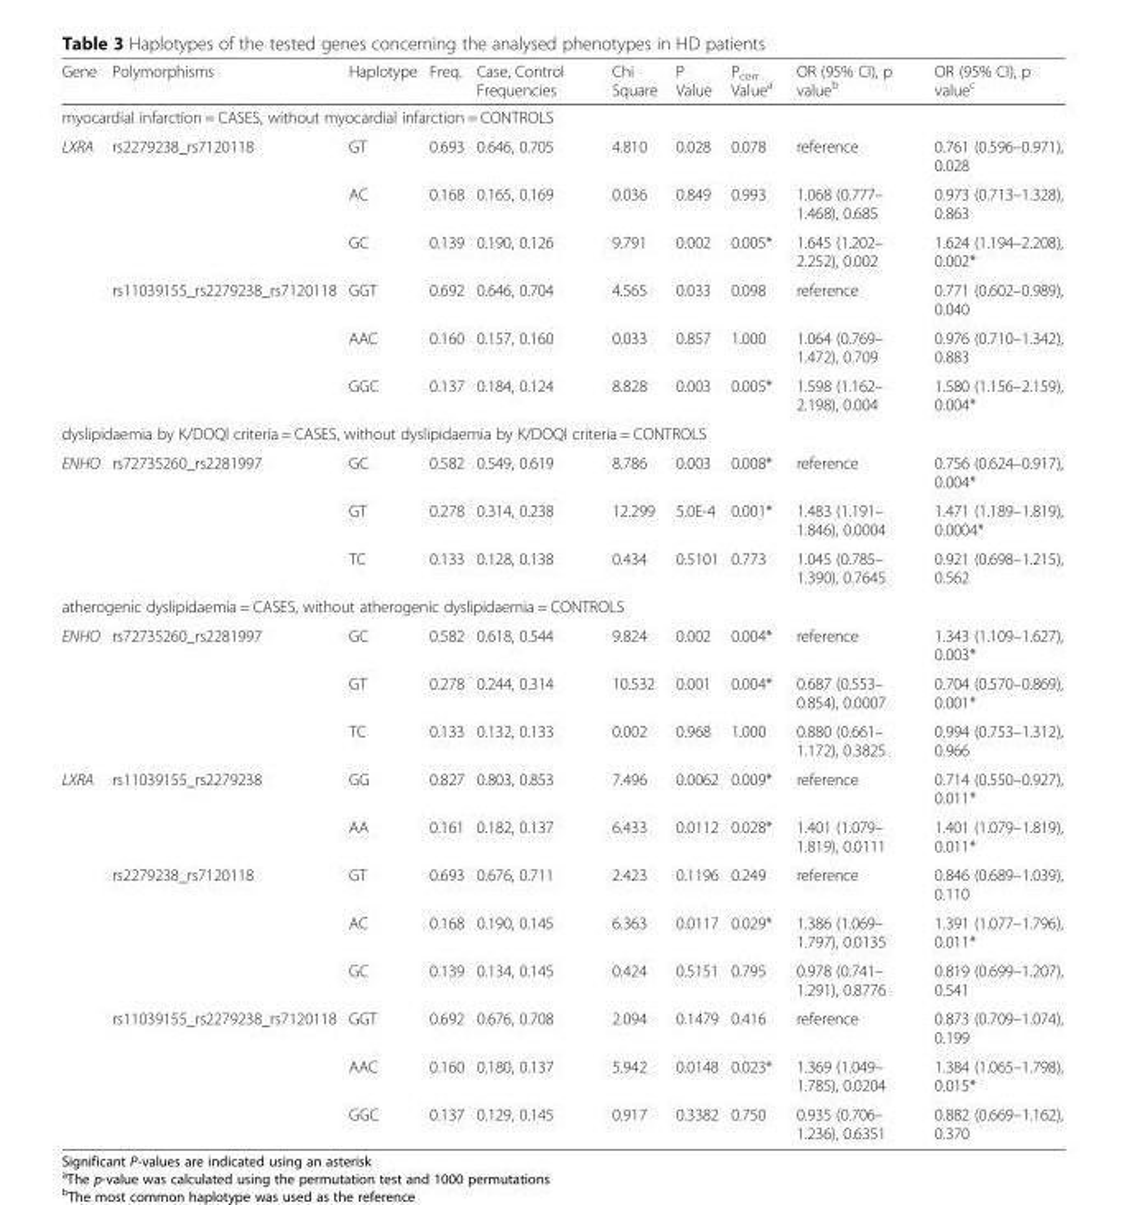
<table><thead><tr><td>Gene</td><td>Polymorphisms</td><td>Haplotype</td><td>Freq.</td><td>Case, Control Frequencies</td><td>Chi Square</td><td>P Value</td><td>P<sub>corr</sub> Value<sup>a</sup></td><td>OR (95% CI), p value<sup>b</sup></td><td>OR (95% CI), p value<sup>c</sup></td></tr></thead><tbody><tr><td colspan="10">myocardial infarction = CASES, without myocardial infarction = CONTROLS</td></tr><tr><td rowspan="6">LXRA</td><td>rs2279238_rs7120118</td><td>GT</td><td>0.693</td><td>0.646, 0.705</td><td>4.810</td><td>0.028</td><td>0.078</td><td>reference</td><td>0.761 (0.596–0.971), 0.028</td></tr><tr><td></td><td>AC</td><td>0.168</td><td>0.165, 0.169</td><td>0.036</td><td>0.849</td><td>0.993</td><td>1.068 (0.777– 1.468), 0.685</td><td>0.973 (0.713–1.328), 0.863</td></tr><tr><td></td><td>GC</td><td>0.139</td><td>0.190, 0.126</td><td>9.791</td><td>0.002</td><td>0.005*</td><td>1.645 (1.202– 2.252), 0.002</td><td>1.624 (1.194–2.208), 0.002*</td></tr><tr><td>rs11039155_rs2279238_rs7120118</td><td>GGT</td><td>0.692</td><td>0.646, 0.704</td><td>4.565</td><td>0.033</td><td>0.098</td><td>reference</td><td>0.771 (0.602–0.989), 0.040</td></tr><tr><td></td><td>AAC</td><td>0.160</td><td>0.157, 0.160</td><td>0.033</td><td>0.857</td><td>1.000</td><td>1.064 (0.769– 1.472), 0.709</td><td>0.976 (0.710–1.342), 0.883</td></tr><tr><td></td><td>GGC</td><td>0.137</td><td>0.184, 0.124</td><td>8.828</td><td>0.003</td><td>0.005*</td><td>1.598 (1.162– 2.198), 0.004</td><td>1.580 (1.156–2.159), 0.004*</td></tr><tr><td colspan="10">dyslipidaemia by K/DOQI criteria = CASES, without dyslipidaemia by K/DOQI criteria = CONTROLS</td></tr><tr><td rowspan="3">ENHO</td><td>rs72735260_rs2281997</td><td>GC</td><td>0.582</td><td>0.549, 0.619</td><td>8.786</td><td>0.003</td><td>0.008*</td><td>reference</td><td>0.756 (0.624–0.917), 0.004*</td></tr><tr><td></td><td>GT</td><td>0.278</td><td>0.314, 0.238</td><td>12.299</td><td>5.0E-4</td><td>0.001*</td><td>1.483 (1.191– 1.846), 0.0004</td><td>1.471 (1.189–1.819), 0.0004*</td></tr><tr><td></td><td>TC</td><td>0.133</td><td>0.128, 0.138</td><td>0.434</td><td>0.5101</td><td>0.773</td><td>1.045 (0.785– 1.390), 0.7645</td><td>0.921 (0.698–1.215), 0.562</td></tr><tr><td colspan="10">atherogenic dyslipidaemia = CASES, without atherogenic dyslipidaemia = CONTROLS</td></tr><tr><td rowspan="3">ENHO</td><td>rs72735260_rs2281997</td><td>GC</td><td>0.582</td><td>0.618, 0.544</td><td>9.824</td><td>0.002</td><td>0.004*</td><td>reference</td><td>1.343 (1.109–1.627), 0.003*</td></tr><tr><td></td><td>GT</td><td>0.278</td><td>0.244, 0.314</td><td>10.532</td><td>0.001</td><td>0.004*</td><td>0.687 (0.553– 0.854), 0.0007</td><td>0.704 (0.570–0.869), 0.001*</td></tr><tr><td></td><td>TC</td><td>0.133</td><td>0.132, 0.133</td><td>0.002</td><td>0.968</td><td>1.000</td><td>0.880 (0.661– 1.172), 0.3825</td><td>0.994 (0.753–1.312), 0.966</td></tr><tr><td rowspan="8">LXRA</td><td>rs11039155_rs2279238</td><td>GG</td><td>0.827</td><td>0.803, 0.853</td><td>7.496</td><td>0.0062</td><td>0.009*</td><td>reference</td><td>0.714 (0.550–0.927), 0.011*</td></tr><tr><td></td><td>AA</td><td>0.161</td><td>0.182, 0.137</td><td>6.433</td><td>0.0112</td><td>0.028*</td><td>1.401 (1.079– 1.819), 0.0111</td><td>1.401 (1.079–1.819), 0.011*</td></tr><tr><td>rs2279238_rs7120118</td><td>GT</td><td>0.693</td><td>0.676, 0.711</td><td>2.423</td><td>0.1196</td><td>0.249</td><td>reference</td><td>0.846 (0.689–1.039), 0.110</td></tr><tr><td></td><td>AC</td><td>0.168</td><td>0.190, 0.145</td><td>6.363</td><td>0.0117</td><td>0.029*</td><td>1.386 (1.069– 1.797), 0.0135</td><td>1.391 (1.077–1.796), 0.011*</td></tr><tr><td></td><td>GC</td><td>0.139</td><td>0.134, 0.145</td><td>0.424</td><td>0.5151</td><td>0.795</td><td>0.978 (0.741– 1.291), 0.8776</td><td>0.819 (0.699–1.207), 0.541</td></tr><tr><td>rs11039155_rs2279238_rs7120118</td><td>GGT</td><td>0.692</td><td>0.676, 0.708</td><td>2.094</td><td>0.1479</td><td>0.416</td><td>reference</td><td>0.873 (0.709–1.074), 0.199</td></tr><tr><td></td><td>AAC</td><td>0.160</td><td>0.180, 0.137</td><td>5.942</td><td>0.0148</td><td>0.023*</td><td>1.369 (1.049– 1.785), 0.0204</td><td>1.384 (1.065–1.798), 0.015*</td></tr><tr><td></td><td>GGC</td><td>0.137</td><td>0.129, 0.145</td><td>0.917</td><td>0.3382</td><td>0.750</td><td>0.935 (0.706– 1.236), 0.6351</td><td>0.882 (0.669–1.162), 0.370</td></tr></tbody></table>